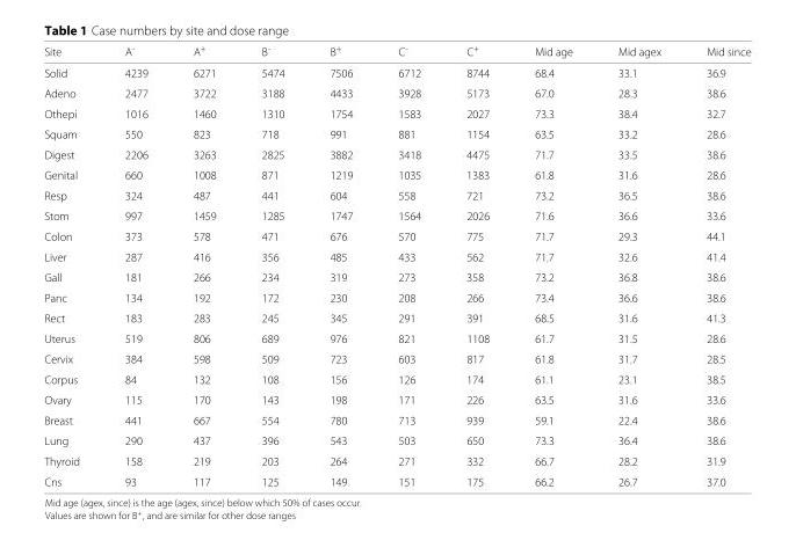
<table><thead><tr><td>Site</td><td>A<sup>-</sup></td><td>A<sup>+</sup></td><td>B<sup>-</sup></td><td>B<sup>+</sup></td><td>C<sup>-</sup></td><td>C<sup>+</sup></td><td>Mid age</td><td>Mid agex</td><td>Mid since</td></tr></thead><tbody><tr><td>Solid</td><td>4239</td><td>6271</td><td>5474</td><td>7506</td><td>6712</td><td>8744</td><td>68.4</td><td>33.1</td><td>36.9</td></tr><tr><td>Adeno</td><td>2477</td><td>3722</td><td>3188</td><td>4433</td><td>3928</td><td>5173</td><td>67.0</td><td>28.3</td><td>38.6</td></tr><tr><td>Othepi</td><td>1016</td><td>1460</td><td>1310</td><td>1754</td><td>1583</td><td>2027</td><td>73.3</td><td>38.4</td><td>32.7</td></tr><tr><td>Squam</td><td>550</td><td>823</td><td>718</td><td>991</td><td>881</td><td>1154</td><td>63.5</td><td>33.2</td><td>28.6</td></tr><tr><td>Digest</td><td>2206</td><td>3263</td><td>2825</td><td>3882</td><td>3418</td><td>4475</td><td>71.7</td><td>33.5</td><td>38.6</td></tr><tr><td>Genital</td><td>660</td><td>1008</td><td>871</td><td>1219</td><td>1035</td><td>1383</td><td>61.8</td><td>31.6</td><td>28.6</td></tr><tr><td>Resp</td><td>324</td><td>487</td><td>441</td><td>604</td><td>558</td><td>721</td><td>73.2</td><td>36.5</td><td>38.6</td></tr><tr><td>Stom</td><td>997</td><td>1459</td><td>1285</td><td>1747</td><td>1564</td><td>2026</td><td>71.6</td><td>36.6</td><td>33.6</td></tr><tr><td>Colon</td><td>373</td><td>578</td><td>471</td><td>676</td><td>570</td><td>775</td><td>71.7</td><td>29.3</td><td>44.1</td></tr><tr><td>Liver</td><td>287</td><td>416</td><td>356</td><td>485</td><td>433</td><td>562</td><td>71.7</td><td>32.6</td><td>41.4</td></tr><tr><td>Gall</td><td>181</td><td>266</td><td>234</td><td>319</td><td>273</td><td>358</td><td>73.2</td><td>36.8</td><td>38.6</td></tr><tr><td>Panc</td><td>134</td><td>192</td><td>172</td><td>230</td><td>208</td><td>266</td><td>73.4</td><td>36.6</td><td>38.6</td></tr><tr><td>Rect</td><td>183</td><td>283</td><td>245</td><td>345</td><td>291</td><td>391</td><td>68.5</td><td>31.6</td><td>41.3</td></tr><tr><td>Uterus</td><td>519</td><td>806</td><td>689</td><td>976</td><td>821</td><td>1108</td><td>61.7</td><td>31.5</td><td>28.6</td></tr><tr><td>Cervix</td><td>384</td><td>598</td><td>509</td><td>723</td><td>603</td><td>817</td><td>61.8</td><td>31.7</td><td>28.5</td></tr><tr><td>Corpus</td><td>84</td><td>132</td><td>108</td><td>156</td><td>126</td><td>174</td><td>61.1</td><td>23.1</td><td>38.5</td></tr><tr><td>Ovary</td><td>115</td><td>170</td><td>143</td><td>198</td><td>171</td><td>226</td><td>63.5</td><td>31.6</td><td>33.6</td></tr><tr><td>Breast</td><td>441</td><td>667</td><td>554</td><td>780</td><td>713</td><td>939</td><td>59.1</td><td>22.4</td><td>38.6</td></tr><tr><td>Lung</td><td>290</td><td>437</td><td>396</td><td>543</td><td>503</td><td>650</td><td>73.3</td><td>36.4</td><td>38.6</td></tr><tr><td>Thyroid</td><td>158</td><td>219</td><td>203</td><td>264</td><td>271</td><td>332</td><td>66.7</td><td>28.2</td><td>31.9</td></tr><tr><td>Cns</td><td>93</td><td>117</td><td>125</td><td>149</td><td>151</td><td>175</td><td>66.2</td><td>26.7</td><td>37.0</td></tr></tbody></table>